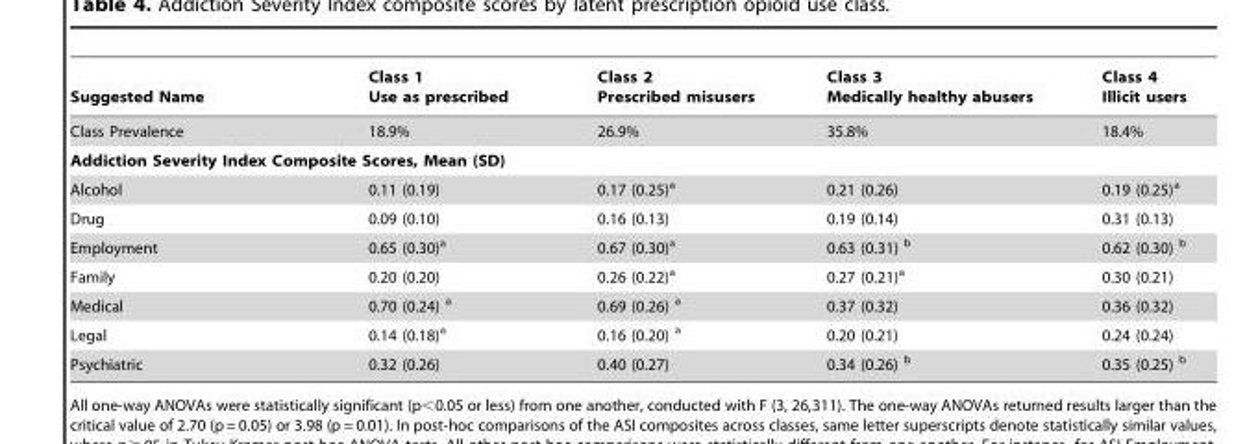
<table><thead><tr><td>Suggested Name</td><td>Class 1 Use as prescribed</td><td>Class 2 Prescribed misusers</td><td>Class 3 Medically healthy abusers</td><td>Class 4 Illicit users</td></tr></thead><tbody><tr><td>Class Prevalence</td><td>18.9%</td><td>26.9%</td><td>35.8%</td><td>18.4%</td></tr><tr><td colspan="5">Addiction Severity Index Composite Scores, Mean (SD)</td></tr><tr><td>Alcohol</td><td>0.11 (0.19)</td><td>0.17 (0.25)<sup>a</sup></td><td>0.21 (0.26)</td><td>0.19 (0.25)<sup>a</sup></td></tr><tr><td>Drug</td><td>0.09 (0.10)</td><td>0.16 (0.13)</td><td>0.19 (0.14)</td><td>0.31 (0.13)</td></tr><tr><td>Employment</td><td>0.65 (0.30)<sup>a</sup></td><td>0.67 (0.30)<sup>a</sup></td><td>0.63 (0.31) <sup>b</sup></td><td>0.62 (0.30) <sup>b</sup></td></tr><tr><td>Family</td><td>0.20 (0.20)</td><td>0.26 (0.22)<sup>a</sup></td><td>0.27 (0.21)<sup>a</sup></td><td>0.30 (0.21)</td></tr><tr><td>Medical</td><td>0.70 (0.24) <sup>a</sup></td><td>0.69 (0.26) <sup>a</sup></td><td>0.37 (0.32)</td><td>0.36 (0.32)</td></tr><tr><td>Legal</td><td>0.14 (0.18)<sup>a</sup></td><td>0.16 (0.20) <sup>a</sup></td><td>0.20 (0.21)</td><td>0.24 (0.24)</td></tr><tr><td>Psychiatric</td><td>0.32 (0.26)</td><td>0.40 (0.27)</td><td>0.34 (0.26) <sup>b</sup></td><td>0.35 (0.25) <sup>b</sup></td></tr></tbody></table>